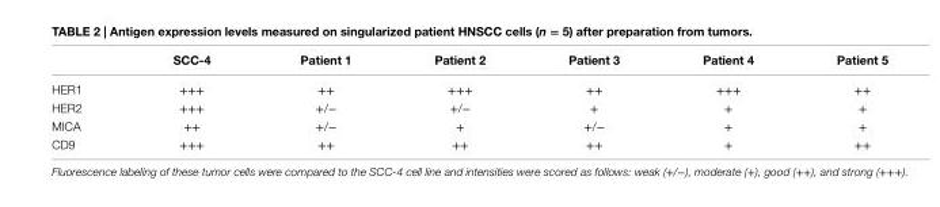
<table><thead><tr><td></td><td>scc-4</td><td>Patient 1</td><td>Patient 2</td><td>Patient 3</td><td>Patient 4</td><td>Patient 5</td></tr></thead><tbody><tr><td>HER1</td><td>+++</td><td>++</td><td>+++</td><td>++</td><td>+++</td><td>++</td></tr><tr><td>HER2</td><td>+++</td><td>+/−</td><td>+/−</td><td>+</td><td>+</td><td>+</td></tr><tr><td>MICA</td><td>++</td><td>+/−</td><td>+</td><td>+/−</td><td>+</td><td>+</td></tr><tr><td>CD9</td><td>+++</td><td>++</td><td>++</td><td>++</td><td>+</td><td>++</td></tr></tbody></table>